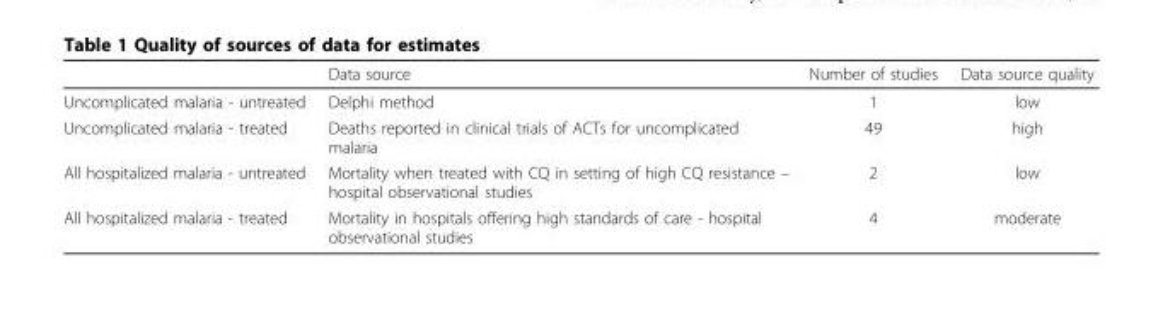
<table><thead><tr><td></td><td>Data source</td><td>Number of studies</td><td>Data source quality</td></tr></thead><tbody><tr><td>Uncomplicated malaria - untreated</td><td>Delphi method</td><td>1</td><td>low</td></tr><tr><td>Uncomplicated malaria - treated</td><td>Deaths reported in clinical trials of ACTs for uncomplicated malaria</td><td>49</td><td>high</td></tr><tr><td>All hospitalized malaria - untreated</td><td>Mortality when treated with CQ in setting of high CQ resistance – hospital observational studies</td><td>2</td><td>low</td></tr><tr><td>All hospitalized malaria - treated</td><td>Mortality in hospitals offering high standards of care - hospital observational studies</td><td>4</td><td>moderate</td></tr></tbody></table>